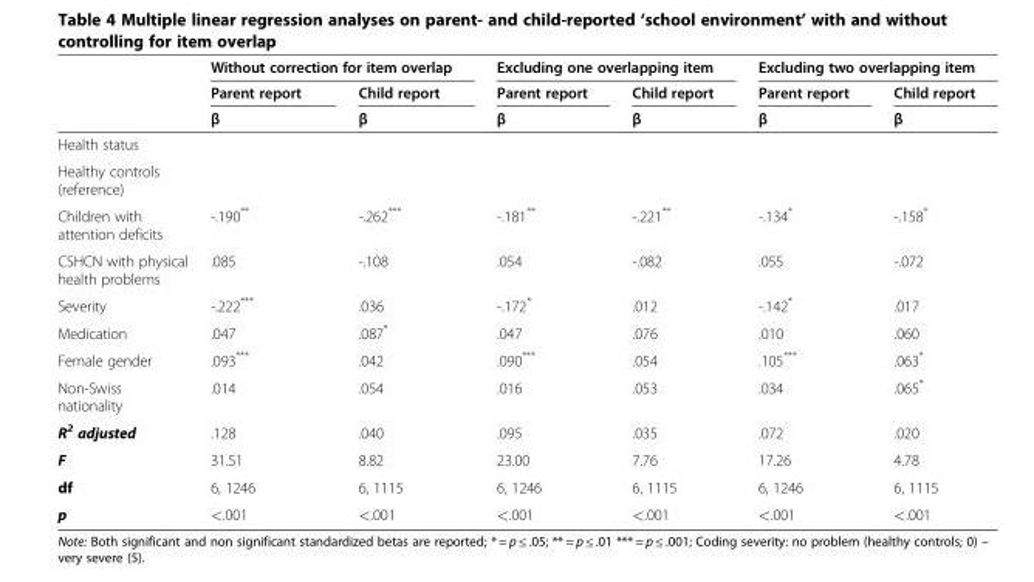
<table><thead><tr><td rowspan="3"></td><td colspan="2">Without correction for item overlap</td><td colspan="2">Excluding one overlapping item</td><td colspan="2">Excluding two overlapping item</td></tr><tr><td rowspan="2">Parent report β</td><td rowspan="2">Child report β</td><td rowspan="2">Parent report β</td><td rowspan="2">Child report β</td><td rowspan="2">Parent report β</td><td rowspan="2">Child report β</td></tr><tr></tr></thead><tbody><tr><td colspan="7">Health status</td></tr><tr><td colspan="7">Healthy controls (reference)</td></tr><tr><td>Children with attention deficits</td><td>-.190**</td><td>-.262***</td><td>-.181**</td><td>-.221**</td><td>-.134*</td><td>-.158*</td></tr><tr><td>CSHCN with physical health problems</td><td>.085</td><td>-.108</td><td>.054</td><td>-.082</td><td>.055</td><td>-.072</td></tr><tr><td>Severity</td><td>-.222***</td><td>.036</td><td>-.172*</td><td>.012</td><td>-.142*</td><td>.017</td></tr><tr><td>Medication</td><td>.047</td><td>.087*</td><td>.047</td><td>.076</td><td>.010</td><td>.060</td></tr><tr><td>Female gender</td><td>.093***</td><td>.042</td><td>.090***</td><td>.054</td><td>.105***</td><td>.063*</td></tr><tr><td>Non-Swiss nationality</td><td>.014</td><td>.054</td><td>.016</td><td>.053</td><td>.034</td><td>.065*</td></tr><tr><td>R<sup>2</sup> adjusted</td><td>.128</td><td>.040</td><td>.095</td><td>.035</td><td>.072</td><td>.020</td></tr><tr><td>F</td><td>31.51</td><td>8.82</td><td>23.00</td><td>7.76</td><td>17.26</td><td>4.78</td></tr><tr><td>df</td><td>6, 1246</td><td>6, 1115</td><td>6, 1246</td><td>6, 1115</td><td>6, 1246</td><td>6, 1115</td></tr><tr><td>p</td><td>&lt;.001</td><td>&lt;.001</td><td>&lt;.001</td><td>&lt;.001</td><td>&lt;.001</td><td>&lt;.001</td></tr></tbody></table>